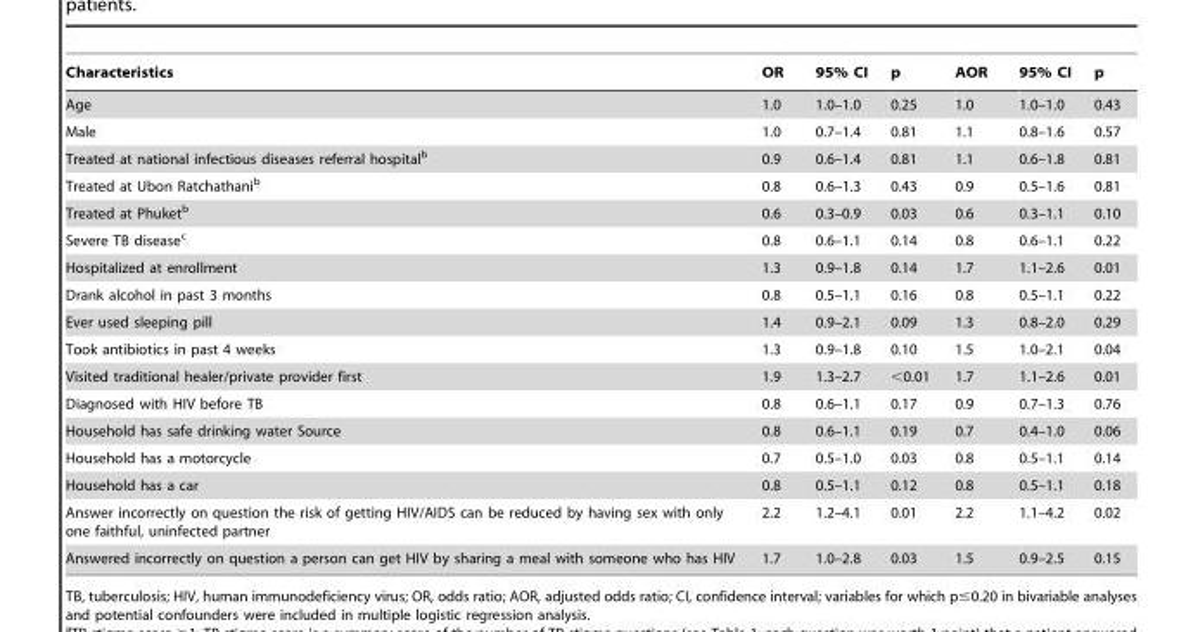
<table><thead><tr><td>Characteristics</td><td>OR</td><td>95% CI</td><td>p</td><td>AOR</td><td>95% CI</td><td>p</td></tr></thead><tbody><tr><td>Age</td><td>1.0</td><td>1.0–1.0</td><td>0.25</td><td>1.0</td><td>1.0–1.0</td><td>0.43</td></tr><tr><td>Male</td><td>1.0</td><td>0.7–1.4</td><td>0.81</td><td>1.1</td><td>0.8–1.6</td><td>0.57</td></tr><tr><td>Treated at national infectious diseases referral hospital<sup>b</sup></td><td>0.9</td><td>0.6–1.4</td><td>0.81</td><td>1.1</td><td>0.6–1.8</td><td>0.81</td></tr><tr><td>Treated at Ubon Ratchathani<sup>b</sup></td><td>0.8</td><td>0.6–1.3</td><td>0.43</td><td>0.9</td><td>0.5–1.6</td><td>0.81</td></tr><tr><td>Treated at Phuket<sup>b</sup></td><td>0.6</td><td>0.3–0.9</td><td>0.03</td><td>0.6</td><td>0.3–1.1</td><td>0.10</td></tr><tr><td>Severe TB disease<sup>c</sup></td><td>0.8</td><td>0.6–1.1</td><td>0.14</td><td>0.8</td><td>0.6–1.1</td><td>0.22</td></tr><tr><td>Hospitalized at enrollment</td><td>1.3</td><td>0.9–1.8</td><td>0.14</td><td>1.7</td><td>1.1–2.6</td><td>0.01</td></tr><tr><td>Drank alcohol in past 3 months</td><td>0.8</td><td>0.5–1.1</td><td>0.16</td><td>0.8</td><td>0.5–1.1</td><td>0.22</td></tr><tr><td>Ever used sleeping pill</td><td>1.4</td><td>0.9–2.1</td><td>0.09</td><td>1.3</td><td>0.8–2.0</td><td>0.29</td></tr><tr><td>Took antibiotics in past 4 weeks</td><td>1.3</td><td>0.9–1.8</td><td>0.10</td><td>1.5</td><td>1.0–2.1</td><td>0.04</td></tr><tr><td>Visited traditional healer/private provider first</td><td>1.9</td><td>1.3–2.7</td><td>&lt;0.01</td><td>1.7</td><td>1.1–2.6</td><td>0.01</td></tr><tr><td>Diagnosed with HIV before TB</td><td>0.8</td><td>0.6–1.1</td><td>0.17</td><td>0.9</td><td>0.7–1.3</td><td>0.76</td></tr><tr><td>Household has safe drinking water Source</td><td>0.8</td><td>0.6–1.1</td><td>0.19</td><td>0.7</td><td>0.4–1.0</td><td>0.06</td></tr><tr><td>Household has a motorcycle</td><td>0.7</td><td>0.5–1.0</td><td>0.03</td><td>0.8</td><td>0.5–1.1</td><td>0.14</td></tr><tr><td>Household has a car</td><td>0.8</td><td>0.5–1.1</td><td>0.12</td><td>0.8</td><td>0.5–1.1</td><td>0.18</td></tr><tr><td>Answer incorrectly on question the risk of getting HIV/AIDS can be reduced by having sex with only one faithful, uninfected partner</td><td>2.2</td><td>1.2–4.1</td><td>0.01</td><td>2.2</td><td>1.1–4.2</td><td>0.02</td></tr><tr><td>Answered incorrectly on question a person can get HIV by sharing a meal with someone who has HIV</td><td>1.7</td><td>1.0–2.8</td><td>0.03</td><td>1.5</td><td>0.9–2.5</td><td>0.15</td></tr></tbody></table>